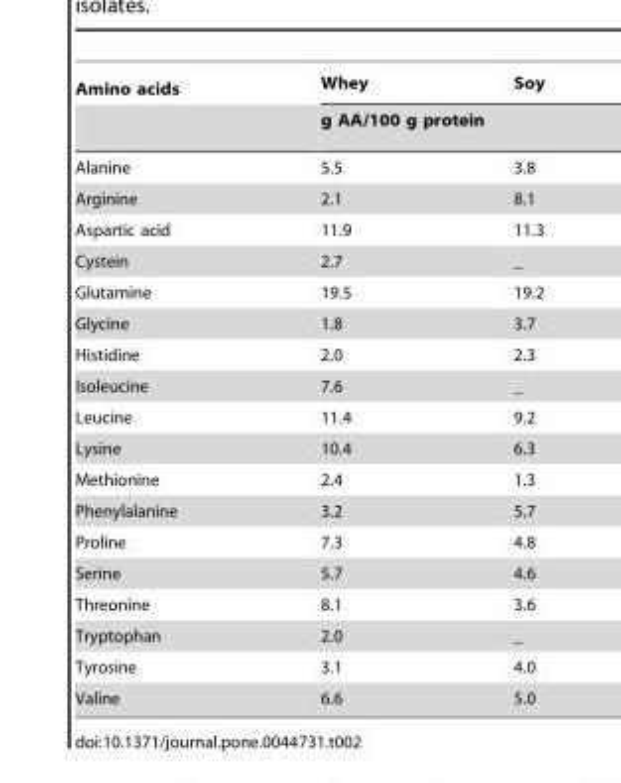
<table><thead><tr><td>Amino acids</td><td>Whey</td><td>Soy</td></tr></thead><tbody><tr><td></td><td colspan="2">g AA/100 g protein</td></tr><tr><td>Alanine</td><td>5.5</td><td>3.8</td></tr><tr><td>Arginine</td><td>2.1</td><td>8.1</td></tr><tr><td>Aspartic acid</td><td>11.9</td><td>11.3</td></tr><tr><td>Cystein</td><td>2.7</td><td>―</td></tr><tr><td>Glutamine</td><td>19.5</td><td>19.2</td></tr><tr><td>Glycine</td><td>1.8</td><td>3.7</td></tr><tr><td>Histidine</td><td>2.0</td><td>2.3</td></tr><tr><td>Isoleucine</td><td>7.6</td><td>―</td></tr><tr><td>Leucine</td><td>11.4</td><td>9.2</td></tr><tr><td>Lysine</td><td>10.4</td><td>6.3</td></tr><tr><td>Methionine</td><td>2.4</td><td>1.3</td></tr><tr><td>Phenylalanine</td><td>3.2</td><td>5.7</td></tr><tr><td>Proline</td><td>7.3</td><td>4.8</td></tr><tr><td>Serine</td><td>5.7</td><td>4.6</td></tr><tr><td>Threonine</td><td>8.1</td><td>3.6</td></tr><tr><td>Tryptophan</td><td>2.0</td><td>―</td></tr><tr><td>Tyrosine</td><td>3.1</td><td>4.0</td></tr><tr><td>Valine</td><td>6.6</td><td>5.0</td></tr></tbody></table>